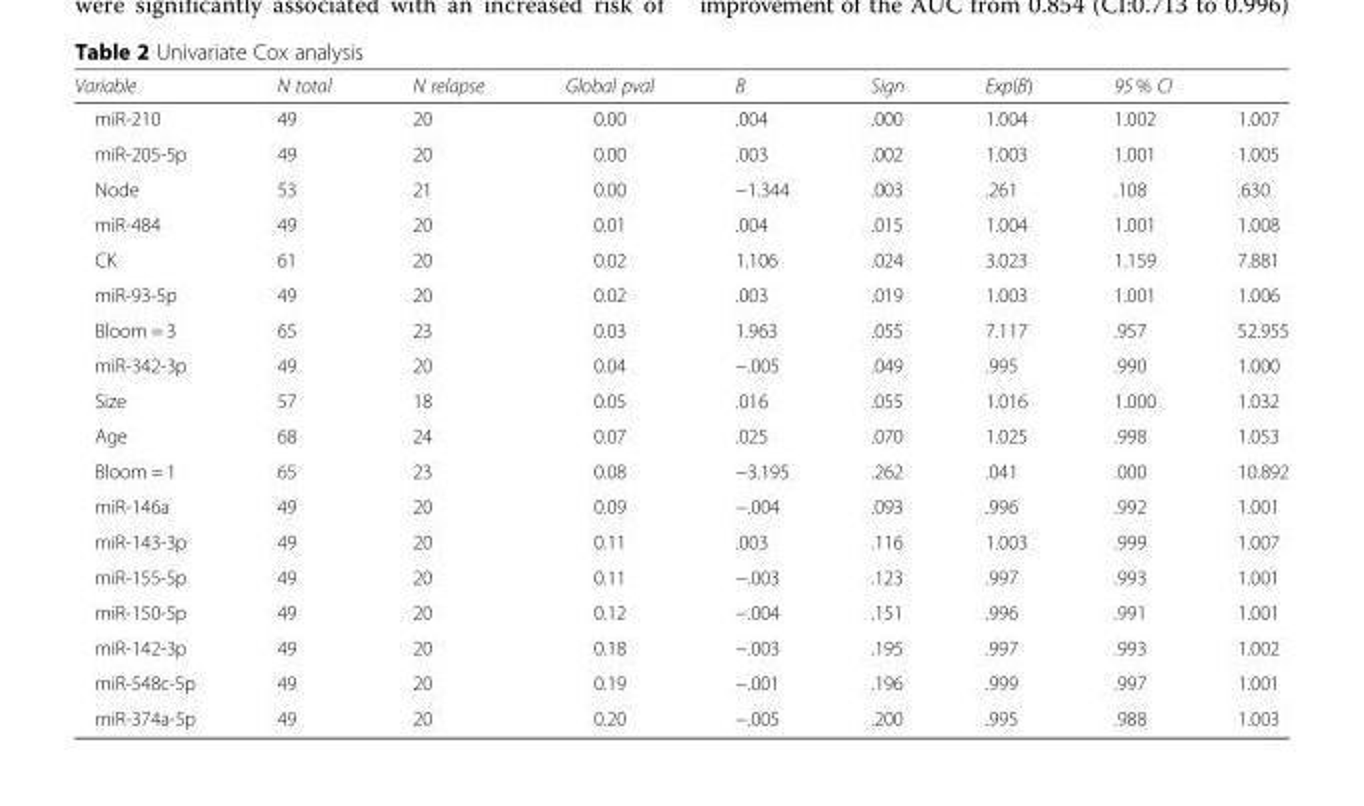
<table><thead><tr><td rowspan="2">Variable miR-210</td><td rowspan="2">N total 49</td><td rowspan="2">N relapse 20</td><td rowspan="2">Global pval 0.00</td><td rowspan="2">B .004</td><td rowspan="2">Sign .000</td><td rowspan="2">Exp(B) 1.004</td><td colspan="2">95 % CI</td></tr><tr><td>1.002</td><td>1.007</td></tr></thead><tbody><tr><td>miR-205-5p</td><td>49</td><td>20</td><td>0.00</td><td>.003</td><td>.002</td><td>1.003</td><td>1.001</td><td>1.005</td></tr><tr><td>Node</td><td>53</td><td>21</td><td>0.00</td><td>−1.344</td><td>.003</td><td>.261</td><td>.108</td><td>.630</td></tr><tr><td>miR-484</td><td>49</td><td>20</td><td>0.01</td><td>.004</td><td>.015</td><td>1.004</td><td>1.001</td><td>1.008</td></tr><tr><td>CK</td><td>61</td><td>20</td><td>0.02</td><td>1.106</td><td>.024</td><td>3.023</td><td>1.159</td><td>7.881</td></tr><tr><td>miR-93-5p</td><td>49</td><td>20</td><td>0.02</td><td>.003</td><td>.019</td><td>1.003</td><td>1.001</td><td>1.006</td></tr><tr><td>Bloom = 3</td><td>65</td><td>23</td><td>0.03</td><td>1.963</td><td>.055</td><td>7.117</td><td>.957</td><td>52.955</td></tr><tr><td>miR-342-3p</td><td>49</td><td>20</td><td>0.04</td><td>−.005</td><td>.049</td><td>.995</td><td>.990</td><td>1.000</td></tr><tr><td>Size</td><td>57</td><td>18</td><td>0.05</td><td>.016</td><td>.055</td><td>1.016</td><td>1.000</td><td>1.032</td></tr><tr><td>Age</td><td>68</td><td>24</td><td>0.07</td><td>.025</td><td>.070</td><td>1.025</td><td>.998</td><td>1.053</td></tr><tr><td>Bloom = 1</td><td>65</td><td>23</td><td>0.08</td><td>−3.195</td><td>.262</td><td>.041</td><td>.000</td><td>10.892</td></tr><tr><td>miR-146a</td><td>49</td><td>20</td><td>0.09</td><td>−.004</td><td>.093</td><td>.996</td><td>.992</td><td>1.001</td></tr><tr><td>miR-143-3p</td><td>49</td><td>20</td><td>0.11</td><td>.003</td><td>.116</td><td>1.003</td><td>.999</td><td>1.007</td></tr><tr><td>miR-155-5p</td><td>49</td><td>20</td><td>0.11</td><td>−.003</td><td>.123</td><td>.997</td><td>.993</td><td>1.001</td></tr><tr><td>miR-150-5p</td><td>49</td><td>20</td><td>0.12</td><td>−.004</td><td>.151</td><td>.996</td><td>.991</td><td>1.001</td></tr><tr><td>miR-142-3p</td><td>49</td><td>20</td><td>0.18</td><td>−.003</td><td>.195</td><td>.997</td><td>.993</td><td>1.002</td></tr><tr><td>miR-548c-5p</td><td>49</td><td>20</td><td>0.19</td><td>−.001</td><td>.196</td><td>.999</td><td>.997</td><td>1.001</td></tr><tr><td>miR-374a-5p</td><td>49</td><td>20</td><td>0.20</td><td>−.005</td><td>.200</td><td>.995</td><td>.988</td><td>1.003</td></tr></tbody></table>